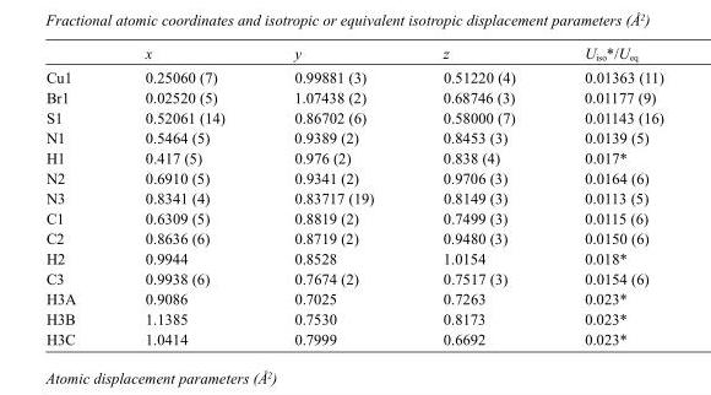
<table><thead><tr><td></td><td>x</td><td>y</td><td>z</td><td>U<sub>iso</sub>*/U<sub>eq</sub></td></tr></thead><tbody><tr><td>Cu1</td><td>0.25060 (7)</td><td>0.99881 (3)</td><td>0.51220 (4)</td><td>0.01363 (11)</td></tr><tr><td>Br1</td><td>0.02520 (5)</td><td>1.07438 (2)</td><td>0.68746 (3)</td><td>0.01177 (9)</td></tr><tr><td>S1</td><td>0.52061 (14)</td><td>0.86702 (6)</td><td>0.58000 (7)</td><td>0.01143 (16)</td></tr><tr><td>N1</td><td>0.5464 (5)</td><td>0.9389 (2)</td><td>0.8453 (3)</td><td>0.0139 (5)</td></tr><tr><td>H1</td><td>0.417 (5)</td><td>0.976 (2)</td><td>0.838 (4)</td><td>0.017*</td></tr><tr><td>N2</td><td>0.6910 (5)</td><td>0.9341 (2)</td><td>0.9706 (3)</td><td>0.0164 (6)</td></tr><tr><td>N3</td><td>0.8341 (4)</td><td>0.83717 (19)</td><td>0.8149 (3)</td><td>0.0113 (5)</td></tr><tr><td>C1</td><td>0.6309 (5)</td><td>0.8819 (2)</td><td>0.7499 (3)</td><td>0.0115 (6)</td></tr><tr><td>C2</td><td>0.8636 (6)</td><td>0.8719 (2)</td><td>0.9480 (3)</td><td>0.0150 (6)</td></tr><tr><td>H2</td><td>0.9944</td><td>0.8528</td><td>1.0154</td><td>0.018*</td></tr><tr><td>C3</td><td>0.9938 (6)</td><td>0.7674 (2)</td><td>0.7517 (3)</td><td>0.0154 (6)</td></tr><tr><td>H3A</td><td>0.9086</td><td>0.7025</td><td>0.7263</td><td>0.023*</td></tr><tr><td>H3B</td><td>1.1385</td><td>0.7530</td><td>0.8173</td><td>0.023*</td></tr><tr><td>H3C</td><td>1.0414</td><td>0.7999</td><td>0.6692</td><td>0.023*</td></tr></tbody></table>